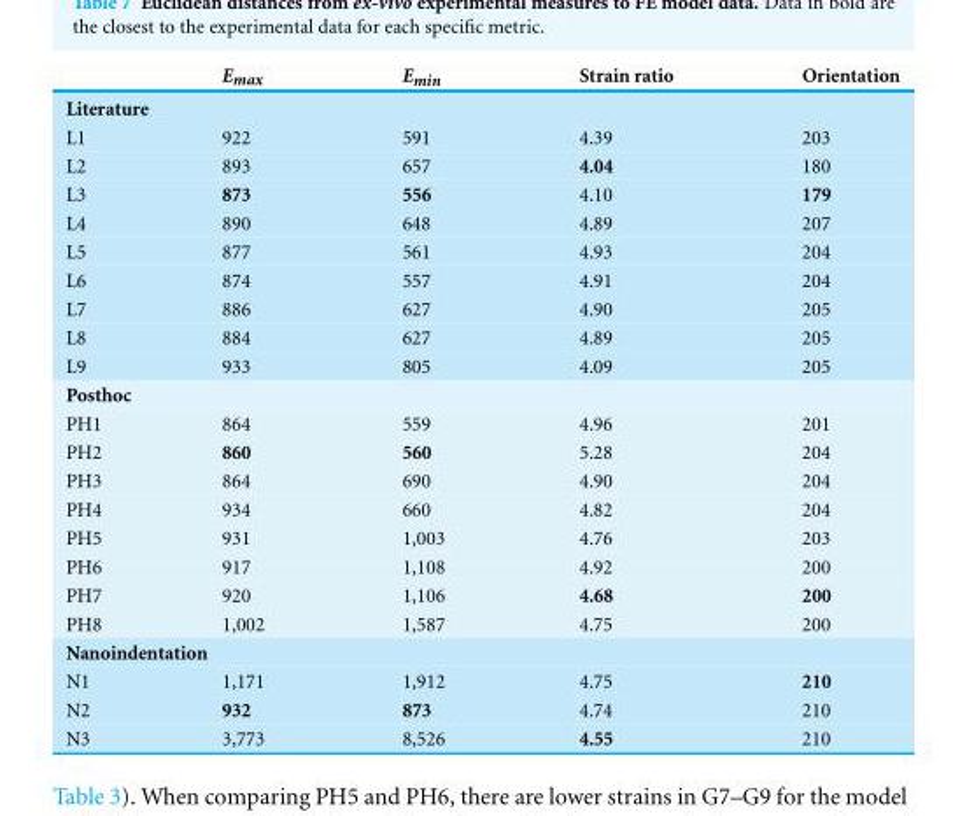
<table><thead><tr><td></td><td>E<sub>max</sub></td><td>E<sub>min</sub></td><td>Strain ratio</td><td>Orientation</td></tr></thead><tbody><tr><td colspan="5">Literature</td></tr><tr><td>L1</td><td>922</td><td>591</td><td>4.39</td><td>203</td></tr><tr><td>L2</td><td>893</td><td>657</td><td>4.04</td><td>180</td></tr><tr><td>L3</td><td>873</td><td>556</td><td>4.10</td><td>179</td></tr><tr><td>L4</td><td>890</td><td>648</td><td>4.89</td><td>207</td></tr><tr><td>L5</td><td>877</td><td>561</td><td>4.93</td><td>204</td></tr><tr><td>L6</td><td>874</td><td>557</td><td>4.91</td><td>204</td></tr><tr><td>L7</td><td>886</td><td>627</td><td>4.90</td><td>205</td></tr><tr><td>L8</td><td>884</td><td>627</td><td>4.89</td><td>205</td></tr><tr><td>L9</td><td>933</td><td>805</td><td>4.09</td><td>205</td></tr><tr><td colspan="5">Posthoc</td></tr><tr><td>PH1</td><td>864</td><td>559</td><td>4.96</td><td>201</td></tr><tr><td>PH2</td><td>860</td><td>560</td><td>5.28</td><td>204</td></tr><tr><td>PH3</td><td>864</td><td>690</td><td>4.90</td><td>204</td></tr><tr><td>PH4</td><td>934</td><td>660</td><td>4.82</td><td>204</td></tr><tr><td>PH5</td><td>931</td><td>1,003</td><td>4.76</td><td>203</td></tr><tr><td>PH6</td><td>917</td><td>1,108</td><td>4.92</td><td>200</td></tr><tr><td>PH7</td><td>920</td><td>1,106</td><td>4.68</td><td>200</td></tr><tr><td>PH8</td><td>1,002</td><td>1,587</td><td>4.75</td><td>200</td></tr><tr><td colspan="5">Nanoindentation</td></tr><tr><td>N1</td><td>1,171</td><td>1,912</td><td>4.75</td><td>210</td></tr><tr><td>N2</td><td>932</td><td>873</td><td>4.74</td><td>210</td></tr><tr><td>N3</td><td>3,773</td><td>8,526</td><td>4.55</td><td>210</td></tr></tbody></table>